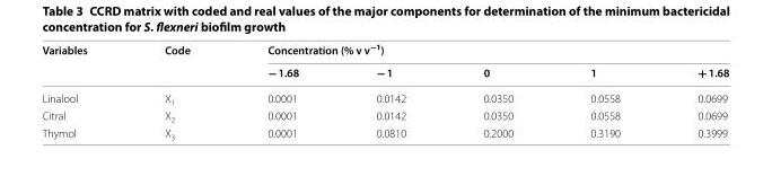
<table><thead><tr><td rowspan="2">Variables</td><td rowspan="2">Code</td><td colspan="5">Concentration (% v v<sup>−1</sup>)</td></tr><tr><td>− 1.68</td><td>− 1</td><td>0</td><td>1</td><td>+ 1.68</td></tr></thead><tbody><tr><td>Linalool</td><td>X<sub>1</sub></td><td>0.0001</td><td>0.0142</td><td>0.0350</td><td>0.0558</td><td>0.0699</td></tr><tr><td>Citral</td><td>X<sub>2</sub></td><td>0.0001</td><td>0.0142</td><td>0.0350</td><td>0.0558</td><td>0.0699</td></tr><tr><td>Thymol</td><td>X<sub>3</sub></td><td>0.0001</td><td>0.0810</td><td>0.2000</td><td>0.3190</td><td>0.3999</td></tr></tbody></table>